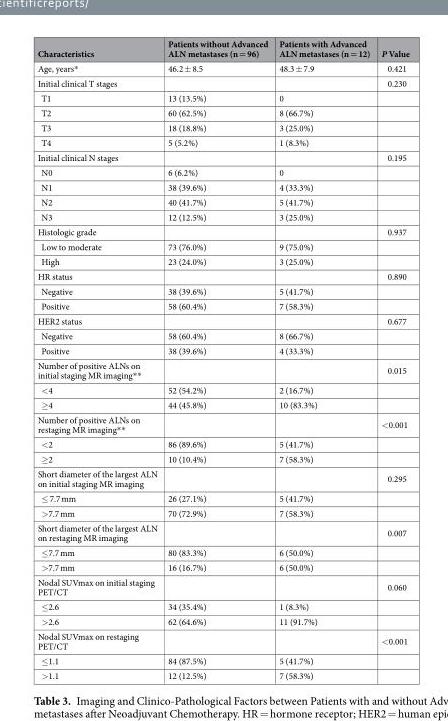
<table><thead><tr><td>Characteristics</td><td>Patients without Advanced ALN metastases (n = 96)</td><td>Patients with Advanced ALN metastases (n = 12)</td><td>P Value</td></tr></thead><tbody><tr><td>Age, years*</td><td>46.2 ± 8.5</td><td>48.3 ± 7.9</td><td>0.421</td></tr><tr><td>Initial clinical T stages</td><td></td><td></td><td>0.230</td></tr><tr><td>T1</td><td>13 (13.5%)</td><td>0</td><td></td></tr><tr><td>T2</td><td>60 (62.5%)</td><td>8 (66.7%)</td><td></td></tr><tr><td>T3</td><td>18 (18.8%)</td><td>3 (25.0%)</td><td></td></tr><tr><td>T4</td><td>5 (5.2%)</td><td>1 (8.3%)</td><td></td></tr><tr><td>Initial clinical N stages</td><td></td><td></td><td>0.195</td></tr><tr><td>N0</td><td>6 (6.2%)</td><td>0</td><td></td></tr><tr><td>N1</td><td>38 (39.6%)</td><td>4 (33.3%)</td><td></td></tr><tr><td>N2</td><td>40 (41.7%)</td><td>5 (41.7%)</td><td></td></tr><tr><td>N3</td><td>12 (12.5%)</td><td>3 (25.0%)</td><td></td></tr><tr><td>Histologic grade</td><td></td><td></td><td>0.937</td></tr><tr><td>Low to moderate</td><td>73 (76.0%)</td><td>9 (75.0%)</td><td></td></tr><tr><td>High</td><td>23 (24.0%)</td><td>3 (25.0%)</td><td></td></tr><tr><td>HR status</td><td></td><td></td><td>0.890</td></tr><tr><td>Negative</td><td>38 (39.6%)</td><td>5 (41.7%)</td><td></td></tr><tr><td>Positive</td><td>58 (60.4%)</td><td>7 (58.3%)</td><td></td></tr><tr><td>HER2 status</td><td></td><td></td><td>0.677</td></tr><tr><td>Negative</td><td>58 (60.4%)</td><td>8 (66.7%)</td><td></td></tr><tr><td>Positive</td><td>38 (39.6%)</td><td>4 (33.3%)</td><td></td></tr><tr><td>Number of positive ALNs on initial staging MR imaging**</td><td></td><td></td><td>0.015</td></tr><tr><td>&lt;4</td><td>52 (54.2%)</td><td>2 (16.7%)</td><td></td></tr><tr><td>≥4</td><td>44 (45.8%)</td><td>10 (83.3%)</td><td></td></tr><tr><td>Number of positive ALNs on restaging MR imaging**</td><td></td><td></td><td>&lt;0.001</td></tr><tr><td>&lt;2</td><td>86 (89.6%)</td><td>5 (41.7%)</td><td></td></tr><tr><td>≥2</td><td>10 (10.4%)</td><td>7 (58.3%)</td><td></td></tr><tr><td>Short diameter of the largest ALN on initial staging MR imaging</td><td></td><td></td><td>0.295</td></tr><tr><td>≤ 7.7 mm</td><td>26 (27.1%)</td><td>5 (41.7%)</td><td></td></tr><tr><td>&gt;7.7 mm</td><td>70 (72.9%)</td><td>7 (58.3%)</td><td></td></tr><tr><td>Short diameter of the largest ALN on restaging MR imaging</td><td></td><td></td><td>0.007</td></tr><tr><td>≤7.7 mm</td><td>80 (83.3%)</td><td>6 (50.0%)</td><td></td></tr><tr><td>&gt;7.7 mm</td><td>16 (16.7%)</td><td>6 (50.0%)</td><td></td></tr><tr><td>Nodal SUVmax on initial staging PET/CT</td><td></td><td></td><td>0.060</td></tr><tr><td>≤2.6</td><td>34 (35.4%)</td><td>1 (8.3%)</td><td></td></tr><tr><td>&gt;2.6</td><td>62 (64.6%)</td><td>11 (91.7%)</td><td></td></tr><tr><td>Nodal SUVmax on restaging PET/CT</td><td></td><td></td><td>&lt;0.001</td></tr><tr><td>≤1.1</td><td>84 (87.5%)</td><td>5 (41.7%)</td><td></td></tr><tr><td>&gt;1.1</td><td>12 (12.5%)</td><td>7 (58.3%)</td><td></td></tr></tbody></table>